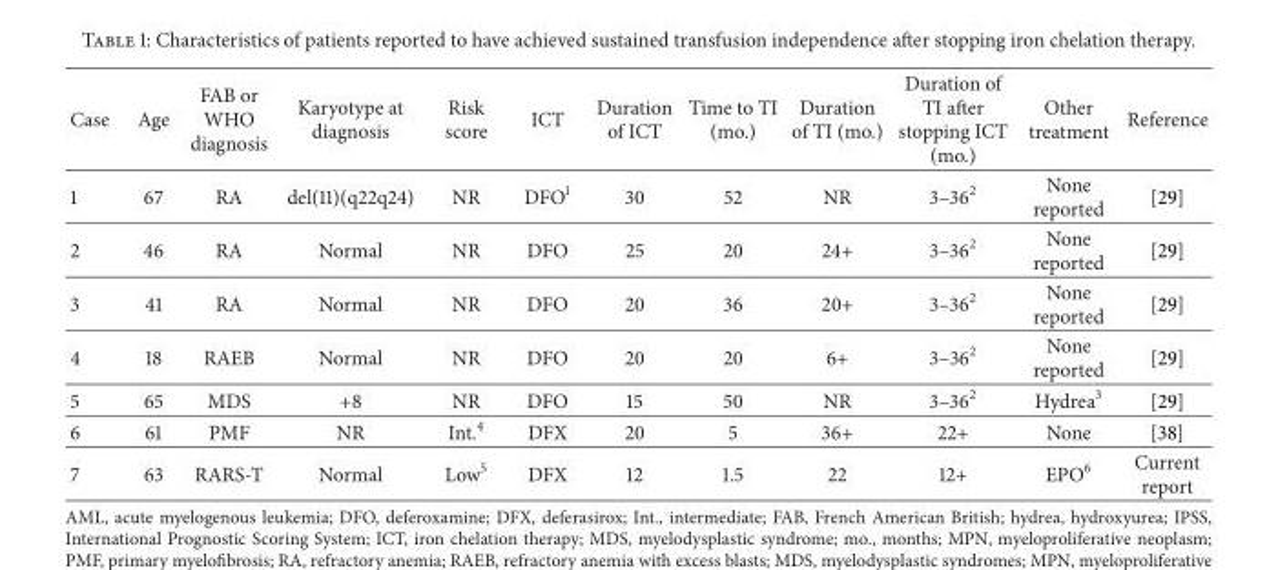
<table><thead><tr><td>Case</td><td>Age</td><td>FAB or WHO diagnosis</td><td>Karyotype at diagnosis</td><td>Risk score</td><td>ICT</td><td>Duration of ICT</td><td>Time to TI (mo.)</td><td>Duration of TI (mo.)</td><td>Duration of TI after stopping ICT (mo.)</td><td>Other treatment</td><td>Reference</td></tr></thead><tbody><tr><td>1</td><td>67</td><td>RA</td><td>del(11)(q22q24)</td><td>NR</td><td>DFO<sup>1</sup></td><td>30</td><td>52</td><td>NR</td><td>3–36<sup>2</sup></td><td>None reported</td><td>[29]</td></tr><tr><td>2</td><td>46</td><td>RA</td><td>Normal</td><td>NR</td><td>DFO</td><td>25</td><td>20</td><td>24+</td><td>3–36<sup>2</sup></td><td>None reported</td><td>[29]</td></tr><tr><td>3</td><td>41</td><td>RA</td><td>Normal</td><td>NR</td><td>DFO</td><td>20</td><td>36</td><td>20+</td><td>3–36<sup>2</sup></td><td>None reported</td><td>[29]</td></tr><tr><td>4</td><td>18</td><td>RAEB</td><td>Normal</td><td>NR</td><td>DFO</td><td>20</td><td>20</td><td>6+</td><td>3–36<sup>2</sup></td><td>None reported</td><td>[29]</td></tr><tr><td>5</td><td>65</td><td>MDS</td><td>+8</td><td>NR</td><td>DFO</td><td>15</td><td>50</td><td>NR</td><td>3–36<sup>2</sup></td><td>Hydrea<sup>3</sup></td><td>[29]</td></tr><tr><td>6</td><td>61</td><td>PMF</td><td>NR</td><td>Int.<sup>4</sup></td><td>DFX</td><td>20</td><td>5</td><td>36+</td><td>22+</td><td>None</td><td>[38]</td></tr><tr><td>7</td><td>63</td><td>RARS-T</td><td>Normal</td><td>Low<sup>5</sup></td><td>DFX</td><td>12</td><td>1.5</td><td>22</td><td>12+</td><td>EPO<sup>6</sup></td><td>Current report</td></tr></tbody></table>